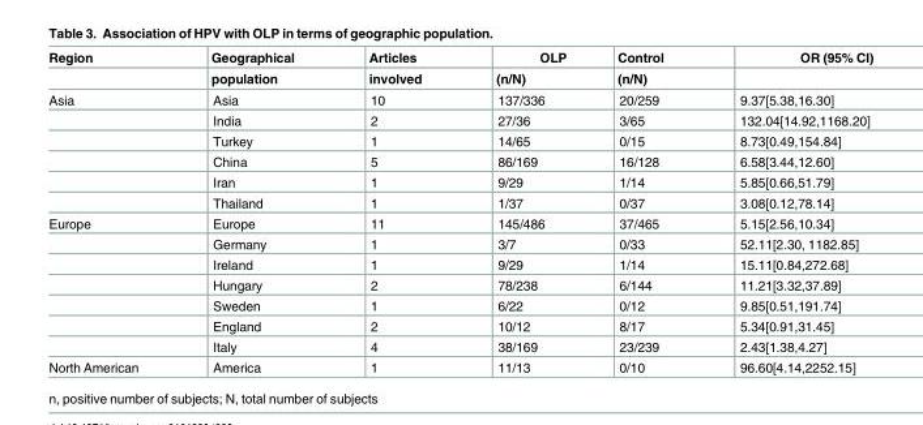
<table><thead><tr><td rowspan="2">Region</td><td rowspan="2">Geographical population</td><td rowspan="2">Articles involved</td><td rowspan="2">OLP (n/N)</td><td rowspan="2">Control (n/N)</td><td rowspan="2">OR (95% CI)</td></tr><tr></tr></thead><tbody><tr><td rowspan="6">Asia</td><td>Asia</td><td>10</td><td>137/336</td><td>20/259</td><td>9.37[5.38,16.30]</td></tr><tr><td>India</td><td>2</td><td>27/36</td><td>3/65</td><td>132.04[14.92,1168.20]</td></tr><tr><td>Turkey</td><td>1</td><td>14/65</td><td>0/15</td><td>8.73[0.49,154.84]</td></tr><tr><td>China</td><td>5</td><td>86/169</td><td>16/128</td><td>6.58[3.44,12.60]</td></tr><tr><td>Iran</td><td>1</td><td>9/29</td><td>1/14</td><td>5.85[0.66,51.79]</td></tr><tr><td>Thailand</td><td>1</td><td>1/37</td><td>0/37</td><td>3.08[0.12,78.14]</td></tr><tr><td rowspan="7">Europe</td><td>Europe</td><td>11</td><td>145/486</td><td>37/465</td><td>5.15[2.56,10.34]</td></tr><tr><td>Germany</td><td>1</td><td>3/7</td><td>0/33</td><td>52.11[2.30, 1182.85]</td></tr><tr><td>Ireland</td><td>1</td><td>9/29</td><td>1/14</td><td>15.11[0.84,272.68]</td></tr><tr><td>Hungary</td><td>2</td><td>78/238</td><td>6/144</td><td>11.21[3.32,37.89]</td></tr><tr><td>Sweden</td><td>1</td><td>6/22</td><td>0/12</td><td>9.85[0.51,191.74]</td></tr><tr><td>England</td><td>2</td><td>10/12</td><td>8/17</td><td>5.34[0.91,31.45]</td></tr><tr><td>Italy</td><td>4</td><td>38/169</td><td>23/239</td><td>2.43[1.38,4.27]</td></tr><tr><td>North American</td><td>America</td><td>1</td><td>11/13</td><td>0/10</td><td>96.60[4.14,2252.15]</td></tr></tbody></table>